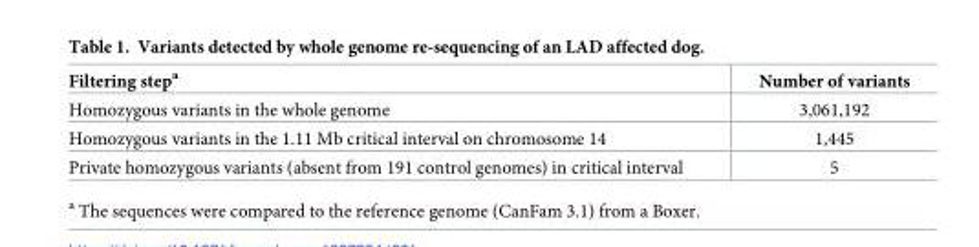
<table><thead><tr><td>Filtering step<sup>a</sup></td><td>Number of variants</td></tr></thead><tbody><tr><td>Homozygous variants in the whole genome</td><td>3,061,192</td></tr><tr><td>Homozygous variants in the 1.11 Mb critical interval on chromosome 14</td><td>1,445</td></tr><tr><td>Private homozygous variants (absent from 191 control genomes) in critical interval</td><td>5</td></tr></tbody></table>